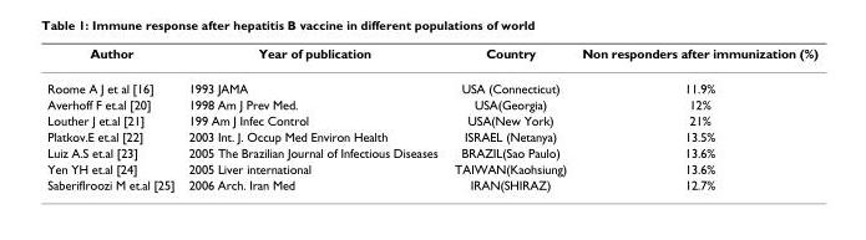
<table><thead><tr><td>Author</td><td>Year of publication</td><td>Country</td><td>Non responders after immunization (%)</td></tr></thead><tbody><tr><td>Roome A J et al [16]</td><td>1993 JAMA</td><td>USA (Connecticut)</td><td>11.9%</td></tr><tr><td>Averhoff F et.al [20]</td><td>1998 Am J Prev Med.</td><td>USA(Georgia)</td><td>12%</td></tr><tr><td>Louther J et.al [21]</td><td>199 Am J Infec Control</td><td>USA(New York)</td><td>21%</td></tr><tr><td>Platkov.E et.al [22]</td><td>2003 Int. J. Occup Med Environ Health</td><td>ISRAEL (Netanya)</td><td>13.5%</td></tr><tr><td>Luiz A.S et.al [23]</td><td>2005 The Brazilian Journal of Infectious Diseases</td><td>BRAZIL(Sao Paulo)</td><td>13.6%</td></tr><tr><td>Yen YH et.al [24]</td><td>2005 Liver international</td><td>TAIWAN(Kaohsiung)</td><td>13.6%</td></tr><tr><td>SaberifIroozi M et.al [25]</td><td>2006 Arch. Iran Med</td><td>IRAN(SHIRAZ)</td><td>12.7%</td></tr></tbody></table>